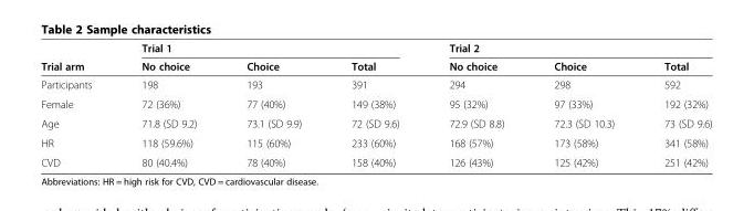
<table><thead><tr><td rowspan="2">Trial arm</td><td colspan="3">Trial 1</td><td colspan="3">Trial 2</td></tr><tr><td>No choice</td><td>Choice</td><td>Total</td><td>No choice</td><td>Choice</td><td>Total</td></tr></thead><tbody><tr><td>Participants</td><td>198</td><td>193</td><td>391</td><td>294</td><td>298</td><td>592</td></tr><tr><td>Female</td><td>72 (36%)</td><td>77 (40%)</td><td>149 (38%)</td><td>95 (32%)</td><td>97 (33%)</td><td>192 (32%)</td></tr><tr><td>Age</td><td>71.8 (SD 9.2)</td><td>73.1 (SD 9.9)</td><td>72 (SD 9.6)</td><td>72.9 (SD 8.8)</td><td>72.3 (SD 10.3)</td><td>73 (SD 9.6)</td></tr><tr><td>HR</td><td>118 (59.6%)</td><td>115 (60%)</td><td>233 (60%)</td><td>168 (57%)</td><td>173 (58%)</td><td>341 (58%)</td></tr><tr><td>CVD</td><td>80 (40.4%)</td><td>78 (40%)</td><td>158 (40%)</td><td>126 (43%)</td><td>125 (42%)</td><td>251 (42%)</td></tr></tbody></table>